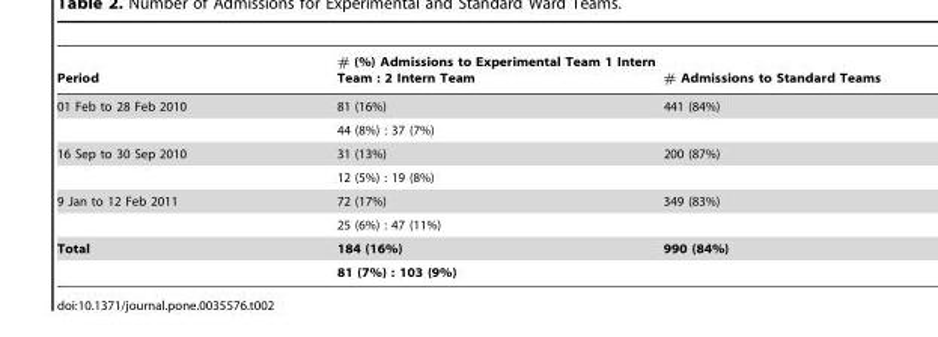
<table><thead><tr><td>Period</td><td># (%) Admissions to Experimental Team 1 Intern Team : 2 Intern Team</td><td># Admissions to Standard Teams</td></tr></thead><tbody><tr><td rowspan="2">01 Feb to 28 Feb 2010</td><td>81 (16%)</td><td>441 (84%)</td></tr><tr><td>44 (8%) : 37 (7%)</td><td></td></tr><tr><td rowspan="2">16 Sep to 30 Sep 2010</td><td>31 (13%)</td><td>200 (87%)</td></tr><tr><td>12 (5%) : 19 (8%)</td><td></td></tr><tr><td rowspan="2">9 Jan to 12 Feb 2011</td><td>72 (17%)</td><td>349 (83%)</td></tr><tr><td>25 (6%) : 47 (11%)</td><td></td></tr><tr><td rowspan="2">Total</td><td>184 (16%)</td><td>990 (84%)</td></tr><tr><td>81 (7%) : 103 (9%)</td><td></td></tr></tbody></table>